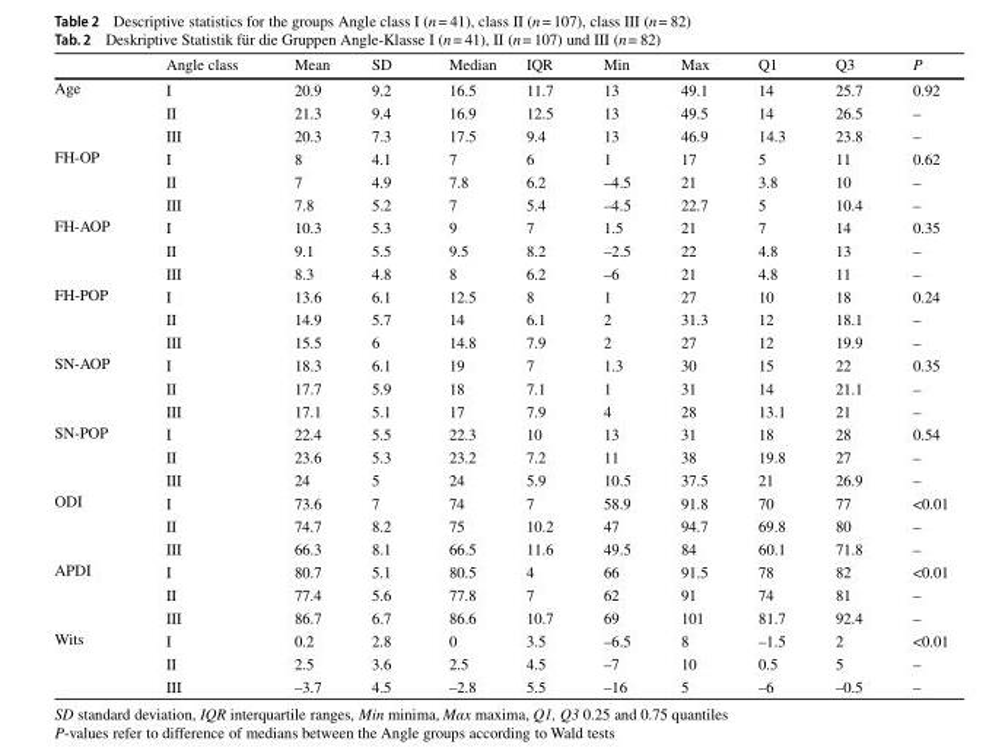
<table><thead><tr><td></td><td>Angle class</td><td>Mean</td><td>SD</td><td>Median</td><td>IQR</td><td>Min</td><td>Max</td><td>Q1</td><td>Q3</td><td>P</td></tr></thead><tbody><tr><td rowspan="3">Age</td><td>I</td><td>20.9</td><td>9.2</td><td>16.5</td><td>11.7</td><td>13</td><td>49.1</td><td>14</td><td>25.7</td><td>0.92</td></tr><tr><td>II</td><td>21.3</td><td>9.4</td><td>16.9</td><td>12.5</td><td>13</td><td>49.5</td><td>14</td><td>26.5</td><td>–</td></tr><tr><td>III</td><td>20.3</td><td>7.3</td><td>17.5</td><td>9.4</td><td>13</td><td>46.9</td><td>14.3</td><td>23.8</td><td>–</td></tr><tr><td rowspan="3">FH-OP</td><td>I</td><td>8</td><td>4.1</td><td>7</td><td>6</td><td>1</td><td>17</td><td>5</td><td>11</td><td>0.62</td></tr><tr><td>II</td><td>7</td><td>4.9</td><td>7.8</td><td>6.2</td><td>–4.5</td><td>21</td><td>3.8</td><td>10</td><td>–</td></tr><tr><td>III</td><td>7.8</td><td>5.2</td><td>7</td><td>5.4</td><td>–4.5</td><td>22.7</td><td>5</td><td>10.4</td><td>–</td></tr><tr><td rowspan="3">FH-AOP</td><td>I</td><td>10.3</td><td>5.3</td><td>9</td><td>7</td><td>1.5</td><td>21</td><td>7</td><td>14</td><td>0.35</td></tr><tr><td>II</td><td>9.1</td><td>5.5</td><td>9.5</td><td>8.2</td><td>–2.5</td><td>22</td><td>4.8</td><td>13</td><td>–</td></tr><tr><td>III</td><td>8.3</td><td>4.8</td><td>8</td><td>6.2</td><td>–6</td><td>21</td><td>4.8</td><td>11</td><td>–</td></tr><tr><td rowspan="3">FH-POP</td><td>I</td><td>13.6</td><td>6.1</td><td>12.5</td><td>8</td><td>1</td><td>27</td><td>10</td><td>18</td><td>0.24</td></tr><tr><td>II</td><td>14.9</td><td>5.7</td><td>14</td><td>6.1</td><td>2</td><td>31.3</td><td>12</td><td>18.1</td><td>–</td></tr><tr><td>III</td><td>15.5</td><td>6</td><td>14.8</td><td>7.9</td><td>2</td><td>27</td><td>12</td><td>19.9</td><td>–</td></tr><tr><td rowspan="3">SN-AOP</td><td>I</td><td>18.3</td><td>6.1</td><td>19</td><td>7</td><td>1.3</td><td>30</td><td>15</td><td>22</td><td>0.35</td></tr><tr><td>II</td><td>17.7</td><td>5.9</td><td>18</td><td>7.1</td><td>1</td><td>31</td><td>14</td><td>21.1</td><td>–</td></tr><tr><td>III</td><td>17.1</td><td>5.1</td><td>17</td><td>7.9</td><td>4</td><td>28</td><td>13.1</td><td>21</td><td>–</td></tr><tr><td rowspan="3">SN-POP</td><td>I</td><td>22.4</td><td>5.5</td><td>22.3</td><td>10</td><td>13</td><td>31</td><td>18</td><td>28</td><td>0.54</td></tr><tr><td>II</td><td>23.6</td><td>5.3</td><td>23.2</td><td>7.2</td><td>11</td><td>38</td><td>19.8</td><td>27</td><td>–</td></tr><tr><td>III</td><td>24</td><td>5</td><td>24</td><td>5.9</td><td>10.5</td><td>37.5</td><td>21</td><td>26.9</td><td>–</td></tr><tr><td rowspan="3">ODI</td><td>I</td><td>73.6</td><td>7</td><td>74</td><td>7</td><td>58.9</td><td>91.8</td><td>70</td><td>77</td><td>&lt;0.01</td></tr><tr><td>II</td><td>74.7</td><td>8.2</td><td>75</td><td>10.2</td><td>47</td><td>94.7</td><td>69.8</td><td>80</td><td>–</td></tr><tr><td>III</td><td>66.3</td><td>8.1</td><td>66.5</td><td>11.6</td><td>49.5</td><td>84</td><td>60.1</td><td>71.8</td><td>–</td></tr><tr><td rowspan="3">APDI</td><td>I</td><td>80.7</td><td>5.1</td><td>80.5</td><td>4</td><td>66</td><td>91.5</td><td>78</td><td>82</td><td>&lt;0.01</td></tr><tr><td>II</td><td>77.4</td><td>5.6</td><td>77.8</td><td>7</td><td>62</td><td>91</td><td>74</td><td>81</td><td>–</td></tr><tr><td>III</td><td>86.7</td><td>6.7</td><td>86.6</td><td>10.7</td><td>69</td><td>101</td><td>81.7</td><td>92.4</td><td>–</td></tr><tr><td rowspan="3">Wits</td><td>I</td><td>0.2</td><td>2.8</td><td>0</td><td>3.5</td><td>–6.5</td><td>8</td><td>–1.5</td><td>2</td><td>&lt;0.01</td></tr><tr><td>II</td><td>2.5</td><td>3.6</td><td>2.5</td><td>4.5</td><td>–7</td><td>10</td><td>0.5</td><td>5</td><td>–</td></tr><tr><td>III</td><td>–3.7</td><td>4.5</td><td>–2.8</td><td>5.5</td><td>–16</td><td>5</td><td>–6</td><td>–0.5</td><td>–</td></tr></tbody></table>